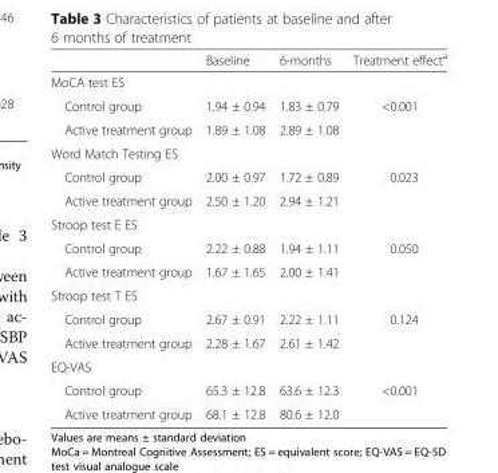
<table><thead><tr><td></td><td>Baseline</td><td>6-months</td><td>Treatment effect<sup>a</sup></td></tr></thead><tbody><tr><td colspan="4">MoCA test ES</td></tr><tr><td>Control group</td><td>1.94 ± 0.94</td><td>1.83 ± 0.79</td><td rowspan="2">&lt;0.001</td></tr><tr><td>Active treatment group</td><td>1.89 ± 1.08</td><td>2.89 ± 1.08</td></tr><tr><td colspan="4">Word Match Testing ES</td></tr><tr><td>Control group</td><td>2.00 ± 0.97</td><td>1.72 ± 0.89</td><td rowspan="2">0.023</td></tr><tr><td>Active treatment group</td><td>2.50 ± 1.20</td><td>2.94 ± 1.21</td></tr><tr><td colspan="4">Stroop test E ES</td></tr><tr><td>Control group</td><td>2.22 ± 0.88</td><td>1.94 ± 1.11</td><td rowspan="2">0.050</td></tr><tr><td>Active treatment group</td><td>1.67 ± 1.65</td><td>2.00 ± 1.41</td></tr><tr><td colspan="4">Stroop test T ES</td></tr><tr><td>Control group</td><td>2.67 ± 0.91</td><td>2.22 ± 1.11</td><td rowspan="2">0.124</td></tr><tr><td>Active treatment group</td><td>2.28 ± 1.67</td><td>2.61 ± 1.42</td></tr><tr><td colspan="4">EQ-VAS</td></tr><tr><td>Control group</td><td>65.3 ± 12.8</td><td>63.6 ± 12.3</td><td rowspan="2">&lt;0.001</td></tr><tr><td>Active treatment group</td><td>68.1 ± 12.8</td><td>80.6 ± 12.0</td></tr></tbody></table>